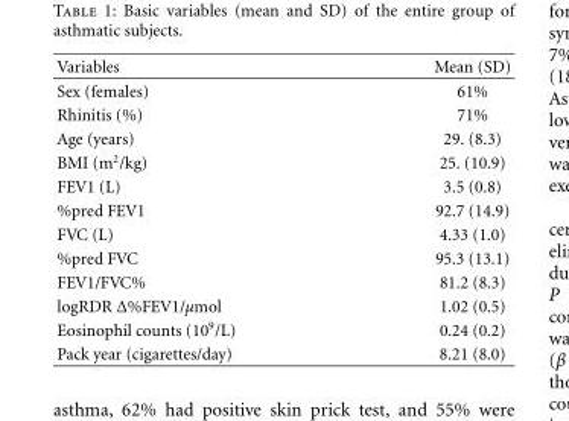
<table><thead><tr><td>Variables</td><td>Mean (SD)</td></tr></thead><tbody><tr><td>Sex (females)</td><td>61%</td></tr><tr><td>Rhinitis (%)</td><td>71%</td></tr><tr><td>Age (years)</td><td>29. (8.3)</td></tr><tr><td>BMI (m<sup>2</sup>/kg)</td><td>25. (10.9)</td></tr><tr><td>FEV1 (L)</td><td>3.5 (0.8)</td></tr><tr><td>%pred FEV1</td><td>92.7 (14.9)</td></tr><tr><td>FVC (L)</td><td>4.33 (1.0)</td></tr><tr><td>%pred FVC</td><td>95.3 (13.1)</td></tr><tr><td>FEV1/FVC%</td><td>81.2 (8.3)</td></tr><tr><td>logRDR Δ%FEV1/μmol</td><td>1.02 (0.5)</td></tr><tr><td>Eosinophil counts (10<sup>9</sup>/L)</td><td>0.24 (0.2)</td></tr><tr><td>Pack year (cigarettes/day)</td><td>8.21 (8.0)</td></tr></tbody></table>